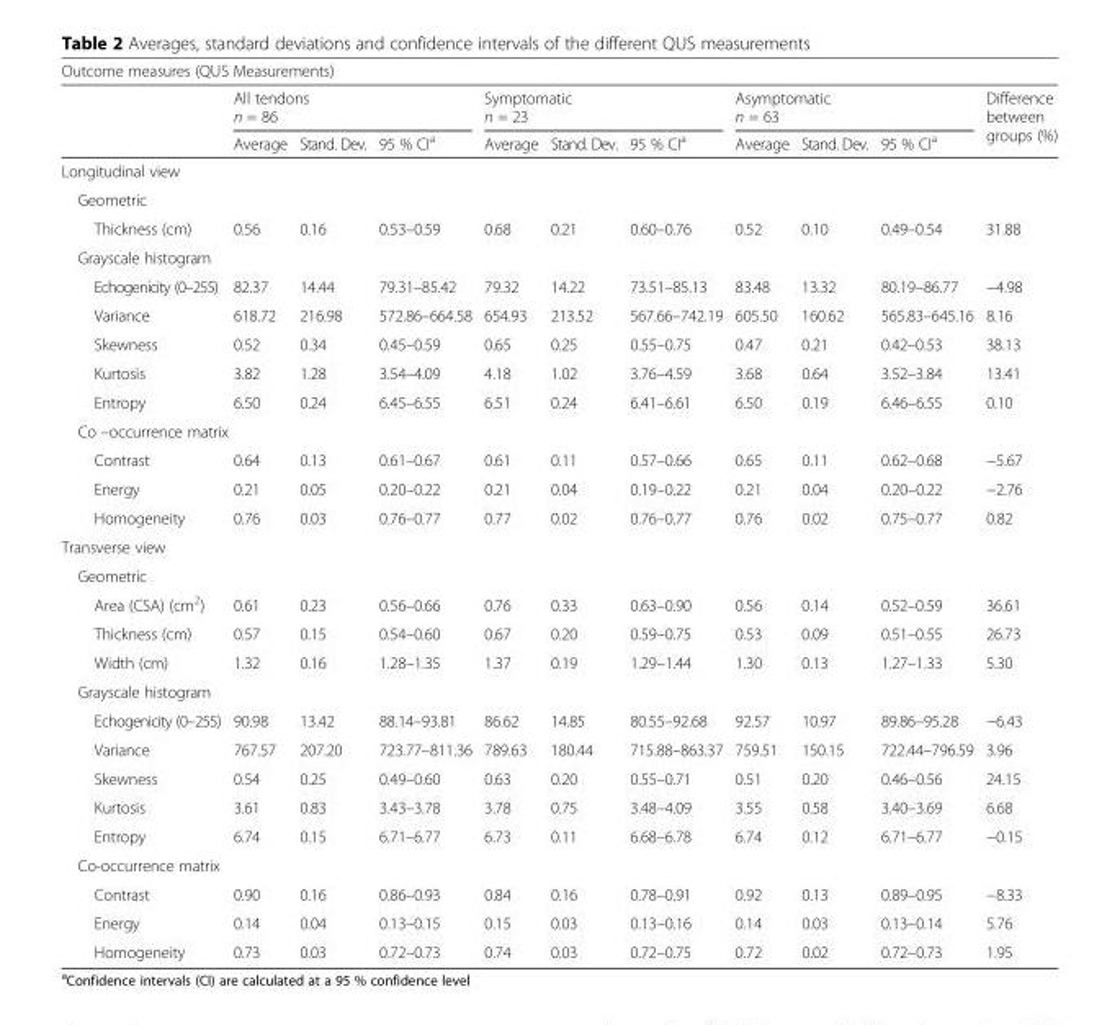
<table><thead><tr><td colspan="11">Outcome measures (QUS Measurements)</td></tr><tr><td rowspan="2"></td><td colspan="3">All tendons n = 86</td><td colspan="3">Symptomatic n = 23</td><td colspan="3">Asymptomatic n = 63</td><td rowspan="2">Difference between groups (%)</td></tr><tr><td>Average</td><td>Stand. Dev.</td><td>95 % CI<sup>a</sup></td><td>Average</td><td>Stand. Dev.</td><td>95 % CI<sup>a</sup></td><td>Average</td><td>Stand. Dev.</td><td>95 % CI<sup>a</sup></td></tr></thead><tbody><tr><td colspan="11">Longitudinal view</td></tr><tr><td colspan="11">Geometric</td></tr><tr><td>Thickness (cm)</td><td>0.56</td><td>0.16</td><td>0.53–0.59</td><td>0.68</td><td>0.21</td><td>0.60–0.76</td><td>0.52</td><td>0.10</td><td>0.49–0.54</td><td>31.88</td></tr><tr><td colspan="11">Grayscale histogram</td></tr><tr><td>Echogenicity (0–255)</td><td>82.37</td><td>14.44</td><td>79.31–85.42</td><td>79.32</td><td>14.22</td><td>73.51–85.13</td><td>83.48</td><td>13.32</td><td>80.19–86.77</td><td>−4.98</td></tr><tr><td>Variance</td><td>618.72</td><td>216.98</td><td>572.86–664.58</td><td>654.93</td><td>213.52</td><td>567.66–742.19</td><td>605.50</td><td>160.62</td><td>565.83–645.16</td><td>8.16</td></tr><tr><td>Skewness</td><td>0.52</td><td>0.34</td><td>0.45–0.59</td><td>0.65</td><td>0.25</td><td>0.55–0.75</td><td>0.47</td><td>0.21</td><td>0.42–0.53</td><td>38.13</td></tr><tr><td>Kurtosis</td><td>3.82</td><td>1.28</td><td>3.54–4.09</td><td>4.18</td><td>1.02</td><td>3.76–4.59</td><td>3.68</td><td>0.64</td><td>3.52–3.84</td><td>13.41</td></tr><tr><td>Entropy</td><td>6.50</td><td>0.24</td><td>6.45–6.55</td><td>6.51</td><td>0.24</td><td>6.41–6.61</td><td>6.50</td><td>0.19</td><td>6.46–6.55</td><td>0.10</td></tr><tr><td colspan="11">Co –occurrence matrix</td></tr><tr><td>Contrast</td><td>0.64</td><td>0.13</td><td>0.61–0.67</td><td>0.61</td><td>0.11</td><td>0.57–0.66</td><td>0.65</td><td>0.11</td><td>0.62–0.68</td><td>−5.67</td></tr><tr><td>Energy</td><td>0.21</td><td>0.05</td><td>0.20–0.22</td><td>0.21</td><td>0.04</td><td>0.19–0.22</td><td>0.21</td><td>0.04</td><td>0.20–0.22</td><td>−2.76</td></tr><tr><td>Homogeneity</td><td>0.76</td><td>0.03</td><td>0.76–0.77</td><td>0.77</td><td>0.02</td><td>0.76–0.77</td><td>0.76</td><td>0.02</td><td>0.75–0.77</td><td>0.82</td></tr><tr><td colspan="11">Transverse view</td></tr><tr><td colspan="11">Geometric</td></tr><tr><td>Area (CSA) (cm<sup>2</sup>)</td><td>0.61</td><td>0.23</td><td>0.56–0.66</td><td>0.76</td><td>0.33</td><td>0.63–0.90</td><td>0.56</td><td>0.14</td><td>0.52–0.59</td><td>36.61</td></tr><tr><td>Thickness (cm)</td><td>0.57</td><td>0.15</td><td>0.54–0.60</td><td>0.67</td><td>0.20</td><td>0.59–0.75</td><td>0.53</td><td>0.09</td><td>0.51–0.55</td><td>26.73</td></tr><tr><td>Width (cm)</td><td>1.32</td><td>0.16</td><td>1.28–1.35</td><td>1.37</td><td>0.19</td><td>1.29–1.44</td><td>1.30</td><td>0.13</td><td>1.27–1.33</td><td>5.30</td></tr><tr><td colspan="11">Grayscale histogram</td></tr><tr><td>Echogenicity (0–255)</td><td>90.98</td><td>13.42</td><td>88.14–93.81</td><td>86.62</td><td>14.85</td><td>80.55–92.68</td><td>92.57</td><td>10.97</td><td>89.86–95.28</td><td>−6.43</td></tr><tr><td>Variance</td><td>767.57</td><td>207.20</td><td>723.77–811.36</td><td>789.63</td><td>180.44</td><td>715.88–863.37</td><td>759.51</td><td>150.15</td><td>722.44–796.59</td><td>3.96</td></tr><tr><td>Skewness</td><td>0.54</td><td>0.25</td><td>0.49–0.60</td><td>0.63</td><td>0.20</td><td>0.55–0.71</td><td>0.51</td><td>0.20</td><td>0.46–0.56</td><td>24.15</td></tr><tr><td>Kurtosis</td><td>3.61</td><td>0.83</td><td>3.43–3.78</td><td>3.78</td><td>0.75</td><td>3.48–4.09</td><td>3.55</td><td>0.58</td><td>3.40–3.69</td><td>6.68</td></tr><tr><td>Entropy</td><td>6.74</td><td>0.15</td><td>6.71–6.77</td><td>6.73</td><td>0.11</td><td>6.68–6.78</td><td>6.74</td><td>0.12</td><td>6.71–6.77</td><td>−0.15</td></tr><tr><td colspan="11">Co-occurrence matrix</td></tr><tr><td>Contrast</td><td>0.90</td><td>0.16</td><td>0.86–0.93</td><td>0.84</td><td>0.16</td><td>0.78–0.91</td><td>0.92</td><td>0.13</td><td>0.89–0.95</td><td>−8.33</td></tr><tr><td>Energy</td><td>0.14</td><td>0.04</td><td>0.13–0.15</td><td>0.15</td><td>0.03</td><td>0.13–0.16</td><td>0.14</td><td>0.03</td><td>0.13–0.14</td><td>5.76</td></tr><tr><td>Homogeneity</td><td>0.73</td><td>0.03</td><td>0.72–0.73</td><td>0.74</td><td>0.03</td><td>0.72–0.75</td><td>0.72</td><td>0.02</td><td>0.72–0.73</td><td>1.95</td></tr></tbody></table>